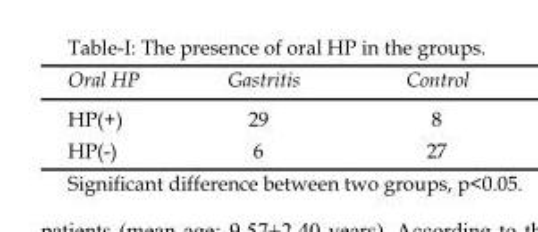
<table><thead><tr><td>Oral HP</td><td>Gastritis</td><td>Control</td></tr></thead><tbody><tr><td>HP(+)</td><td>29</td><td>8</td></tr><tr><td>HP(-)</td><td>6</td><td>27</td></tr></tbody></table>